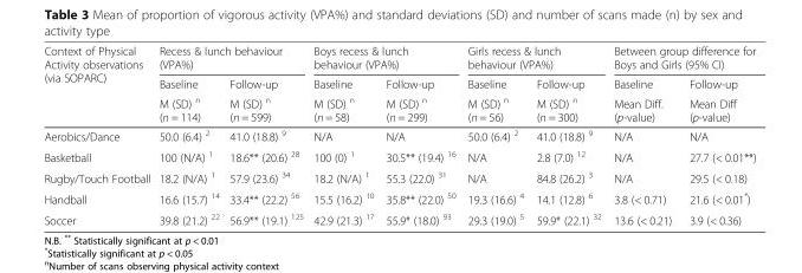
<table><thead><tr><td rowspan="3">Context of Physical Activity observations (via SOPARC)</td><td colspan="2">Recess &amp; lunch behaviour (VPA%)</td><td colspan="2">Boys recess &amp; lunch behaviour (VPA%)</td><td colspan="2">Girls recess &amp; lunch behaviour (VPA%)</td><td colspan="2">Between group difference for Boys and Girls (95% CI)</td></tr><tr><td rowspan="2">Baseline M (SD) <sup>n</sup> (n = 114)</td><td rowspan="2">Follow-up M (SD) <sup>n</sup> (n = 599)</td><td rowspan="2">Baseline M (SD) <sup>n</sup> (n = 58)</td><td rowspan="2">Follow-up M (SD) <sup>n</sup> (n = 299)</td><td rowspan="2">Baseline M (SD) <sup>n</sup> (n = 56)</td><td rowspan="2">Follow-up M (SD) <sup>n</sup> (n = 300)</td><td rowspan="2">Baseline Mean Diff. (p-value)</td><td rowspan="2">Follow-up Mean Diff (p-value)</td></tr><tr></tr></thead><tbody><tr><td>Aerobics/Dance</td><td>50.0 (6.4) <sup>2</sup></td><td>41.0 (18.8) <sup>9</sup></td><td>N/A</td><td>N/A</td><td>50.0 (6.4) <sup>2</sup></td><td>41.0 (18.8) <sup>9</sup></td><td>N/A</td><td>N/A</td></tr><tr><td>Basketball</td><td>100 (N/A) <sup>1</sup></td><td>18.6** (20.6) <sup>28</sup></td><td>100 (0) <sup>1</sup></td><td>30.5** (19.4) <sup>16</sup></td><td>N/A</td><td>2.8 (7.0) <sup>12</sup></td><td>N/A</td><td>27.7 (&lt; 0.01**)</td></tr><tr><td>Rugby/Touch Football</td><td>18.2 (N/A) <sup>1</sup></td><td>57.9 (23.6) <sup>34</sup></td><td>18.2 (N/A) <sup>1</sup></td><td>55.3 (22.0) <sup>31</sup></td><td>N/A</td><td>84.8 (26.2) <sup>3</sup></td><td>N/A</td><td>29.5 (&lt; 0.18)</td></tr><tr><td>Handball</td><td>16.6 (15.7) <sup>14</sup></td><td>33.4** (22.2) <sup>56</sup></td><td>15.5 (16.2) <sup>10</sup></td><td>35.8** (22.0) <sup>50</sup></td><td>19.3 (16.6) <sup>4</sup></td><td>14.1 (12.8) <sup>6</sup></td><td>3.8 (&lt; 0.71)</td><td>21.6 (&lt; 0.01*)</td></tr><tr><td>Soccer</td><td>39.8 (21.2) <sup>22</sup></td><td>56.9** (19.1) <sup>125</sup></td><td>42.9 (21.3) <sup>17</sup></td><td>55.9* (18.0) <sup>93</sup></td><td>29.3 (19.0) <sup>5</sup></td><td>59.9* (22.1) <sup>32</sup></td><td>13.6 (&lt; 0.21)</td><td>3.9 (&lt; 0.36)</td></tr></tbody></table>